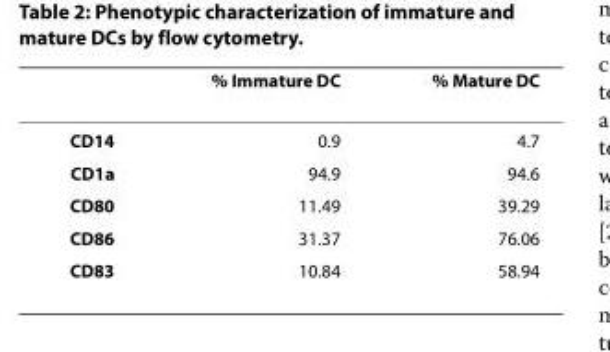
<table><thead><tr><td></td><td>% Immature DC</td><td>% Mature DC</td></tr></thead><tbody><tr><td>CD14</td><td>0.9</td><td>4.7</td></tr><tr><td>CD1a</td><td>94.9</td><td>94.6</td></tr><tr><td>CD80</td><td>11.49</td><td>39.29</td></tr><tr><td>CD86</td><td>31.37</td><td>76.06</td></tr><tr><td>CD83</td><td>10.84</td><td>58.94</td></tr></tbody></table>